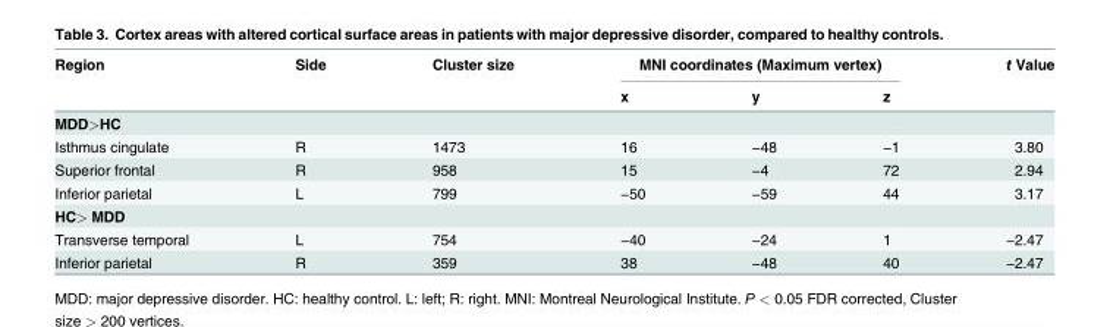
<table><thead><tr><td rowspan="2">Region</td><td rowspan="2">Side</td><td rowspan="2">Cluster size</td><td colspan="3">MNI coordinates (Maximum vertex)</td><td rowspan="2">t Value</td></tr><tr><td>x</td><td>y</td><td>z</td></tr></thead><tbody><tr><td colspan="7">MDD&gt;HC</td></tr><tr><td>Isthmus cingulate</td><td>R</td><td>1473</td><td>16</td><td>−48</td><td>−1</td><td>3.80</td></tr><tr><td>Superior frontal</td><td>R</td><td>958</td><td>15</td><td>−4</td><td>72</td><td>2.94</td></tr><tr><td>Inferior parietal</td><td>L</td><td>799</td><td>−50</td><td>−59</td><td>44</td><td>3.17</td></tr><tr><td colspan="7">HC&gt; MDD</td></tr><tr><td>Transverse temporal</td><td>L</td><td>754</td><td>−40</td><td>−24</td><td>1</td><td>−2.47</td></tr><tr><td>Inferior parietal</td><td>R</td><td>359</td><td>38</td><td>−48</td><td>40</td><td>−2.47</td></tr></tbody></table>